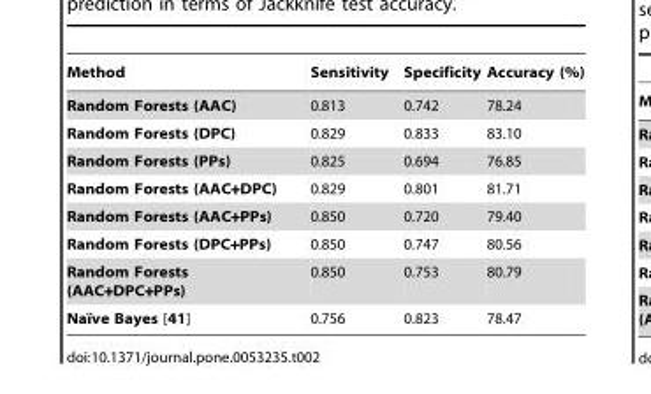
<table><thead><tr><td>Method</td><td>Sensitivity</td><td>Specificity</td><td>Accuracy (%)</td></tr></thead><tbody><tr><td>Random Forests (AAC)</td><td>0.813</td><td>0.742</td><td>78.24</td></tr><tr><td>Random Forests (DPC)</td><td>0.829</td><td>0.833</td><td>83.10</td></tr><tr><td>Random Forests (PPs)</td><td>0.825</td><td>0.694</td><td>76.85</td></tr><tr><td>Random Forests (AAC+DPC)</td><td>0.829</td><td>0.801</td><td>81.71</td></tr><tr><td>Random Forests (AAC+PPs)</td><td>0.850</td><td>0.720</td><td>79.40</td></tr><tr><td>Random Forests (DPC+PPs)</td><td>0.850</td><td>0.747</td><td>80.56</td></tr><tr><td>Random Forests (AAC+DPC+PPs)</td><td>0.850</td><td>0.753</td><td>80.79</td></tr><tr><td>Naı¨ve Bayes [41]</td><td>0.756</td><td>0.823</td><td>78.47</td></tr></tbody></table>